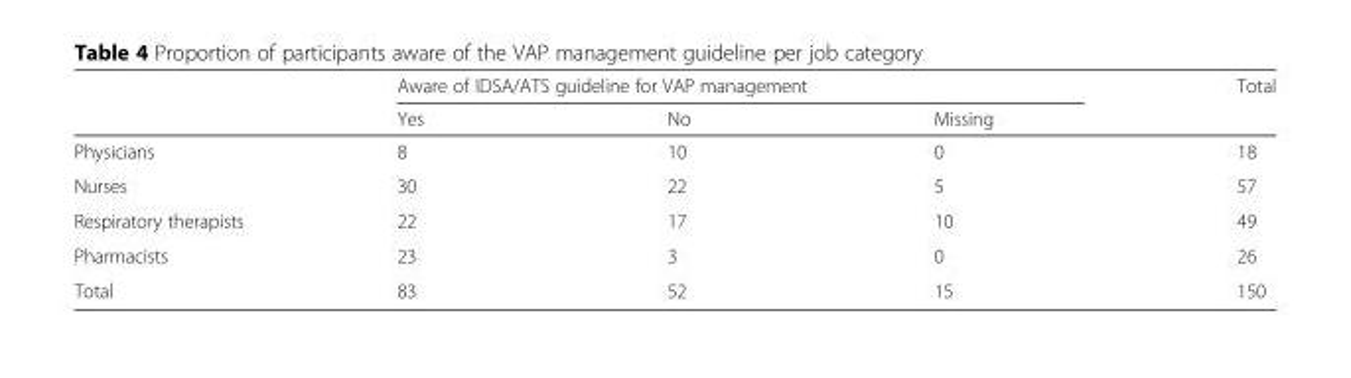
<table><thead><tr><td rowspan="2"></td><td colspan="3">Aware of IDSA/ATS guideline for VAP management</td><td rowspan="2">Total</td></tr><tr><td>Yes</td><td>No</td><td>Missing</td></tr></thead><tbody><tr><td>Physicians</td><td>8</td><td>10</td><td>0</td><td>18</td></tr><tr><td>Nurses</td><td>30</td><td>22</td><td>5</td><td>57</td></tr><tr><td>Respiratory therapists</td><td>22</td><td>17</td><td>10</td><td>49</td></tr><tr><td>Pharmacists</td><td>23</td><td>3</td><td>0</td><td>26</td></tr><tr><td>Total</td><td>83</td><td>52</td><td>15</td><td>150</td></tr></tbody></table>